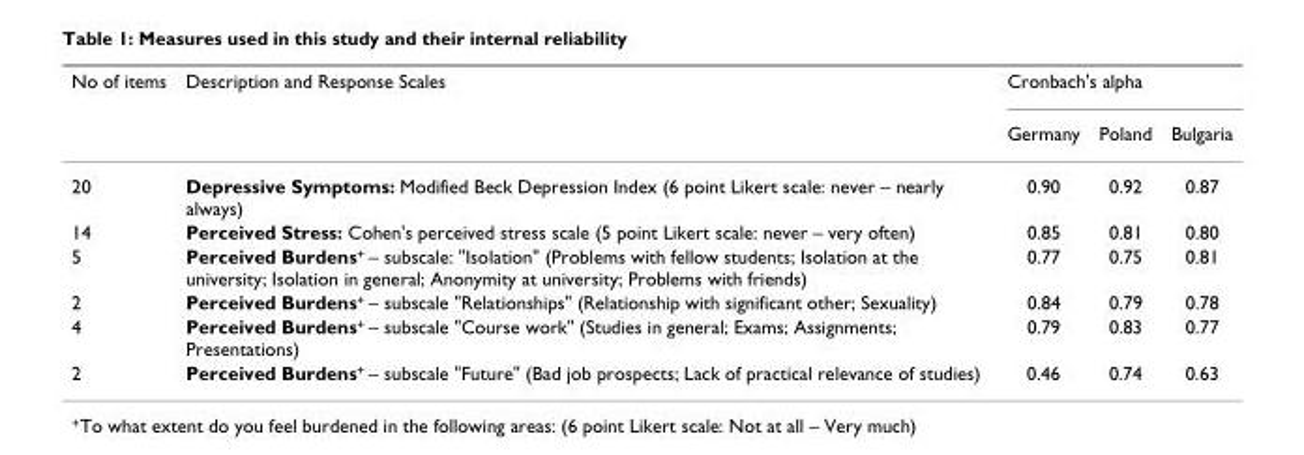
<table><thead><tr><td rowspan="2">No of items</td><td rowspan="2">Description and Response Scales</td><td colspan="3">Cronbach&#x27;s alpha</td></tr><tr><td>Germany</td><td>Poland</td><td>Bulgaria</td></tr></thead><tbody><tr><td>20</td><td>Depressive Symptoms: Modified Beck Depression Index (6 point Likert scale: never – nearly always)</td><td>0.90</td><td>0.92</td><td>0.87</td></tr><tr><td>14</td><td>Perceived Stress: Cohen&#x27;s perceived stress scale (5 point Likert scale: never – very often)</td><td>0.85</td><td>0.81</td><td>0.80</td></tr><tr><td>5</td><td>Perceived Burdens<sup>+</sup> – subscale: &quot;Isolation&quot; (Problems with fellow students; Isolation at the university; Isolation in general; Anonymity at university; Problems with friends)</td><td>0.77</td><td>0.75</td><td>0.81</td></tr><tr><td>2</td><td>Perceived Burdens<sup>+</sup> – subscale &quot;Relationships&quot; (Relationship with significant other; Sexuality)</td><td>0.84</td><td>0.79</td><td>0.78</td></tr><tr><td>4</td><td>Perceived Burdens<sup>+</sup> – subscale &quot;Course work&quot; (Studies in general; Exams; Assignments; Presentations)</td><td>0.79</td><td>0.83</td><td>0.77</td></tr><tr><td>2</td><td>Perceived Burdens<sup>+</sup> – subscale &quot;Future&quot; (Bad job prospects; Lack of practical relevance of studies)</td><td>0.46</td><td>0.74</td><td>0.63</td></tr></tbody></table>